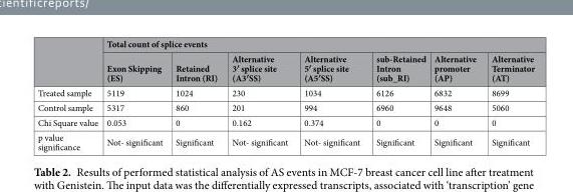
<table><thead><tr><td rowspan="2"></td><td colspan="7">Total count of splice events</td></tr><tr><td>Exon Skipping (ES)</td><td>Retained Intron (RI)</td><td>Alternative 3′ splice site (A3′SS)</td><td>Alternative 5′ splice site (A5′SS)</td><td>sub-Retained Intron (sub_RI)</td><td>Alternative promoter (AP)</td><td>Alternative Terminator (AT)</td></tr></thead><tbody><tr><td>Treated sample</td><td>5119</td><td>1024</td><td>230</td><td>1034</td><td>6126</td><td>6832</td><td>8699</td></tr><tr><td>Control sample</td><td>5317</td><td>860</td><td>201</td><td>994</td><td>6960</td><td>9648</td><td>5060</td></tr><tr><td>Chi Square value</td><td>0.053</td><td>0</td><td>0.162</td><td>0.374</td><td>0</td><td>0</td><td>0</td></tr><tr><td>p value significance</td><td>Not- significant</td><td>Significant</td><td>Not- significant</td><td>Not- significant</td><td>Significant</td><td>Significant</td><td>Significant</td></tr></tbody></table>